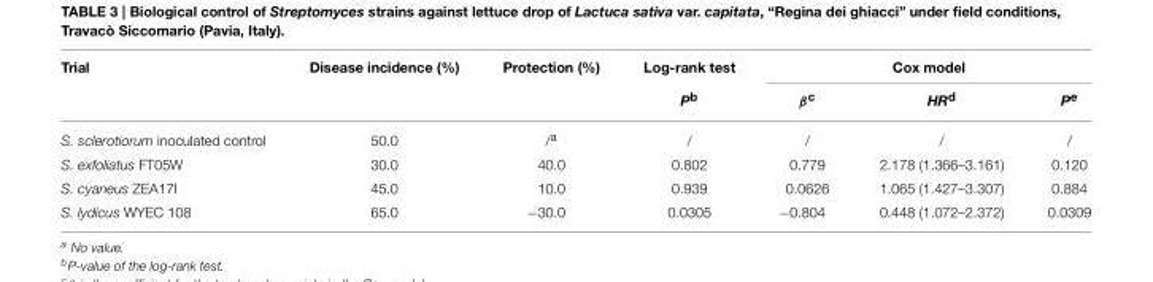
<table><thead><tr><td rowspan="2">Trial</td><td rowspan="2">Disease incidence (%)</td><td rowspan="2">Protection (%)</td><td rowspan="2">Log-rank test P<sup>b</sup></td><td colspan="3">Cox model</td></tr><tr><td>β<sup>c</sup></td><td>HR<sup>d</sup></td><td>P<sup>e</sup></td></tr></thead><tbody><tr><td>S. sclerotiorum inoculated control</td><td>50.0</td><td>/<sup>a</sup></td><td>/</td><td>/</td><td>/</td><td>/</td></tr><tr><td>S. exfoliatus FT05W</td><td>30.0</td><td>40.0</td><td>0.802</td><td>0.779</td><td>2.178 (1.366–3.161)</td><td>0.120</td></tr><tr><td>S. cyaneus ZEA17I</td><td>45.0</td><td>10.0</td><td>0.939</td><td>0.0626</td><td>1.065 (1.427–3.307)</td><td>0.884</td></tr><tr><td>S. lydicus WYEC 108</td><td>65.0</td><td>−30.0</td><td>0.0305</td><td>−0.804</td><td>0.448 (1.072–2.372)</td><td>0.0309</td></tr></tbody></table>